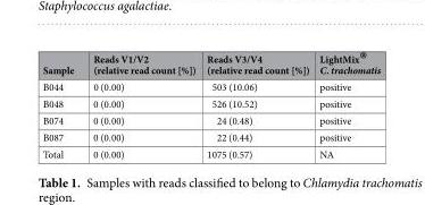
<table><thead><tr><td>Sample</td><td>Reads V1/V2 (relative read count [%])</td><td>Reads V3/V4 (relative read count [%])</td><td>LightMix® C. trachomatis</td></tr></thead><tbody><tr><td>B044</td><td>0 (0.00)</td><td>503 (10.06)</td><td>positive</td></tr><tr><td>B048</td><td>0 (0.00)</td><td>526 (10.52)</td><td>positive</td></tr><tr><td>B074</td><td>0 (0.00)</td><td>24 (0.48)</td><td>positive</td></tr><tr><td>B087</td><td>0 (0.00)</td><td>22 (0.44)</td><td>positive</td></tr><tr><td>Total</td><td>0 (0.00)</td><td>1075 (0.57)</td><td>NA</td></tr></tbody></table>